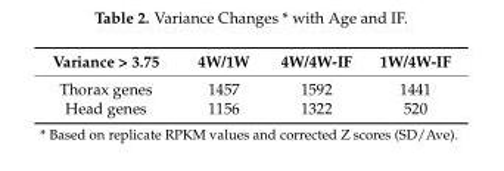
<table><thead><tr><td>Variance &gt; 3.75</td><td>4W/1W</td><td>4W/4W-IF</td><td>1W/4W-IF</td></tr></thead><tbody><tr><td>Thorax genes</td><td>1457</td><td>1592</td><td>1441</td></tr><tr><td>Head genes</td><td>1156</td><td>1322</td><td>520</td></tr></tbody></table>